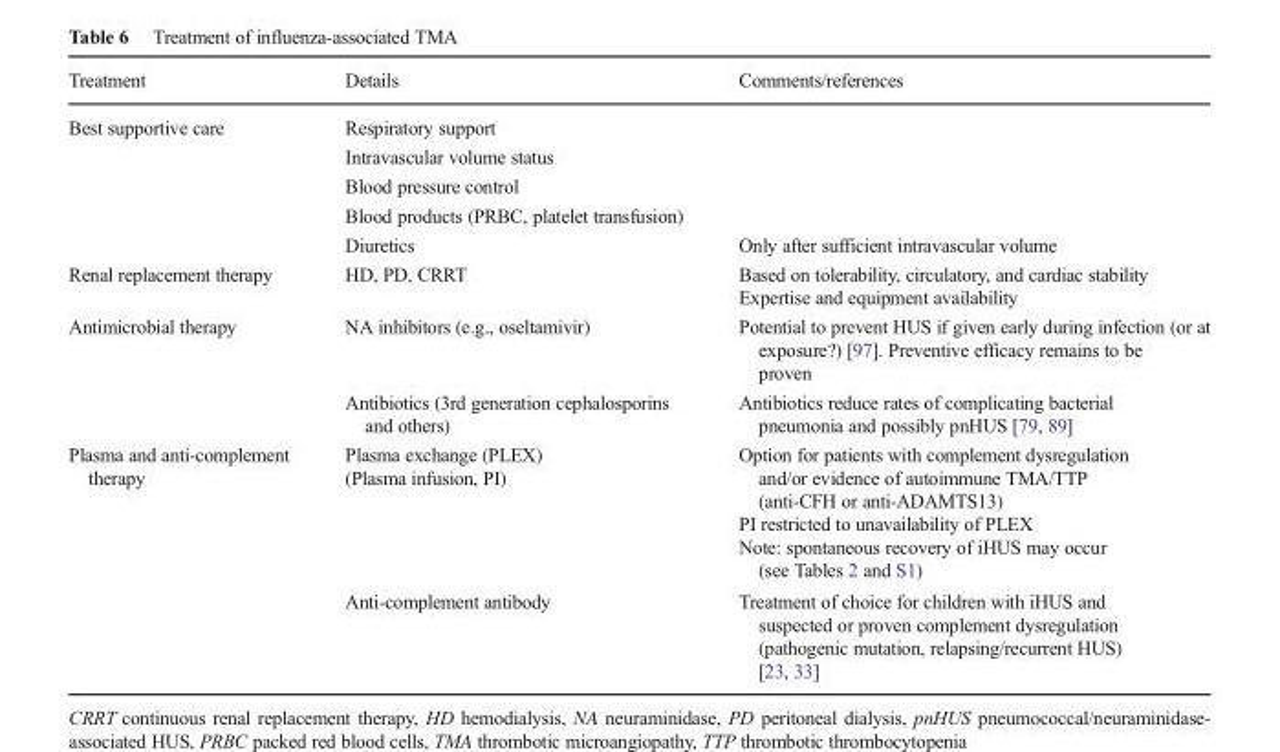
<table><thead><tr><td>Treatment</td><td>Details</td><td>Comments/references</td></tr></thead><tbody><tr><td rowspan="5">Best supportive care</td><td>Respiratory support</td><td></td></tr><tr><td>Intravascular volume status</td><td></td></tr><tr><td>Blood pressure control</td><td></td></tr><tr><td>Blood products (PRBC, platelet transfusion)</td><td></td></tr><tr><td>Diuretics</td><td>Only after sufficient intravascular volume</td></tr><tr><td>Renal replacement therapy</td><td>HD, PD, CRRT</td><td>Based on tolerability, circulatory, and cardiac stability Expertise and equipment availability</td></tr><tr><td rowspan="2">Antimicrobial therapy</td><td>NA inhibitors (e.g., oseltamivir)</td><td>Potential to prevent HUS if given early during infection (or at exposure?) [97]. Preventive efficacy remains to be proven</td></tr><tr><td>Antibiotics (3rd generation cephalosporins and others)</td><td>Antibiotics reduce rates of complicating bacterial pneumonia and possibly pnHUS [79, 89]</td></tr><tr><td rowspan="2">Plasma and anti-complement therapy</td><td>Plasma exchange (PLEX) (Plasma infusion, PI)</td><td>Option for patients with complement dysregulation and/or evidence of autoimmune TMA/TTP (anti-CFH or anti-ADAMTS13) PI restricted to unavailability of PLEX Note: spontaneous recovery of iHUS may occur (see Tables 2 and S1)</td></tr><tr><td>Anti-complement antibody</td><td>Treatment of choice for children with iHUS and suspected or proven complement dysregulation (pathogenic mutation, relapsing/recurrent HUS) [23, 33]</td></tr></tbody></table>